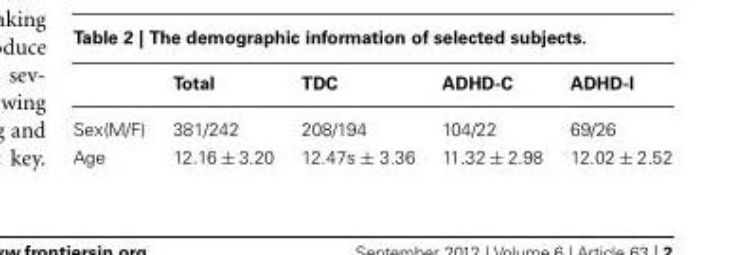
<table><thead><tr><td></td><td>Total</td><td>TDC</td><td>ADHD-C</td><td>ADHD-I</td></tr></thead><tbody><tr><td>Sex(M/F)</td><td>381/242</td><td>208/194</td><td>104/22</td><td>69/26</td></tr><tr><td>Age</td><td>12.16 ± 3.20</td><td>12.47s ± 3.36</td><td>11.32 ± 2.98</td><td>12.02 ± 2.52</td></tr></tbody></table>